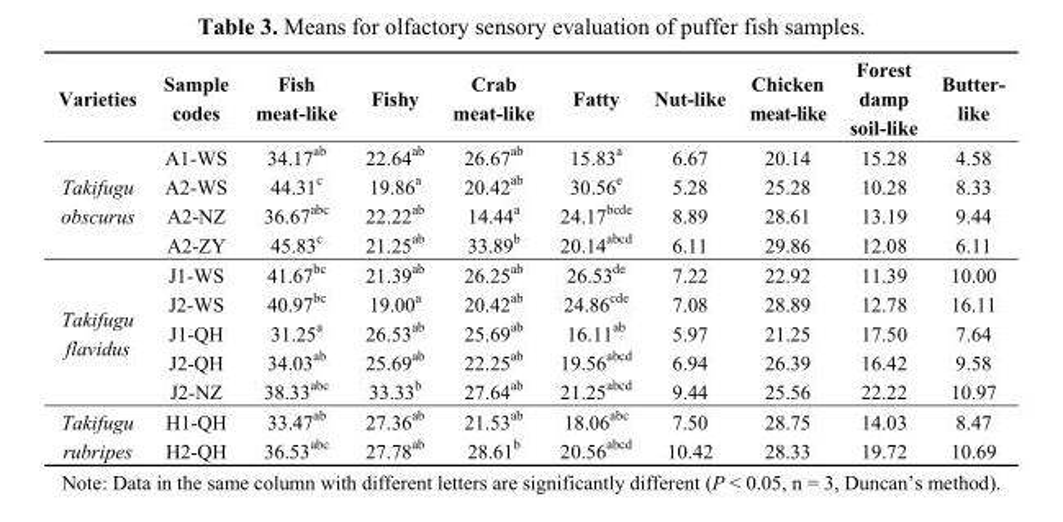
<table><thead><tr><td>Varieties</td><td>Sample codes</td><td>Fish meat-like</td><td>Fishy</td><td>Crab meat-like</td><td>Fatty</td><td>Nut-like</td><td>Chicken meat-like</td><td>Forest damp soil-like</td><td>Butter- like</td></tr></thead><tbody><tr><td rowspan="4">Takifugu obscurus</td><td>A1-WS</td><td>34.17<sup>ab</sup></td><td>22.64<sup>ab</sup></td><td>26.67<sup>ab</sup></td><td>15.83<sup>a</sup></td><td>6.67</td><td>20.14</td><td>15.28</td><td>4.58</td></tr><tr><td>A2-WS</td><td>44.31<sup>c</sup></td><td>19.86<sup>a</sup></td><td>20.42<sup>ab</sup></td><td>30.56<sup>e</sup></td><td>5.28</td><td>25.28</td><td>10.28</td><td>8.33</td></tr><tr><td>A2-NZ</td><td>36.67<sup>abc</sup></td><td>22.22<sup>ab</sup></td><td>14.44<sup>a</sup></td><td>24.17<sup>bcde</sup></td><td>8.89</td><td>28.61</td><td>13.19</td><td>9.44</td></tr><tr><td>A2-ZY</td><td>45.83<sup>c</sup></td><td>21.25<sup>ab</sup></td><td>33.89<sup>b</sup></td><td>20.14<sup>abcd</sup></td><td>6.11</td><td>29.86</td><td>12.08</td><td>6.11</td></tr><tr><td rowspan="5">Takifugu flavidus</td><td>J1-WS</td><td>41.67<sup>bc</sup></td><td>21.39<sup>ab</sup></td><td>26.25<sup>ab</sup></td><td>26.53<sup>de</sup></td><td>7.22</td><td>22.92</td><td>11.39</td><td>10.00</td></tr><tr><td>J2-WS</td><td>40.97<sup>bc</sup></td><td>19.00<sup>a</sup></td><td>20.42<sup>ab</sup></td><td>24.86<sup>cde</sup></td><td>7.08</td><td>28.89</td><td>12.78</td><td>16.11</td></tr><tr><td>J1-QH</td><td>31.25<sup>a</sup></td><td>26.53<sup>ab</sup></td><td>25.69<sup>ab</sup></td><td>16.11<sup>ab</sup></td><td>5.97</td><td>21.25</td><td>17.50</td><td>7.64</td></tr><tr><td>J2-QH</td><td>34.03<sup>ab</sup></td><td>25.69<sup>ab</sup></td><td>22.25<sup>ab</sup></td><td>19.56<sup>abcd</sup></td><td>6.94</td><td>26.39</td><td>16.42</td><td>9.58</td></tr><tr><td>J2-NZ</td><td>38.33<sup>abc</sup></td><td>33.33<sup>b</sup></td><td>27.64<sup>ab</sup></td><td>21.25<sup>abcd</sup></td><td>9.44</td><td>25.56</td><td>22.22</td><td>10.97</td></tr><tr><td rowspan="2">Takifugu rubripes</td><td>H1-QH</td><td>33.47<sup>ab</sup></td><td>27.36<sup>ab</sup></td><td>21.53<sup>ab</sup></td><td>18.06<sup>abc</sup></td><td>7.50</td><td>28.75</td><td>14.03</td><td>8.47</td></tr><tr><td>H2-QH</td><td>36.53<sup>abc</sup></td><td>27.78<sup>ab</sup></td><td>28.61<sup>b</sup></td><td>20.56<sup>abcd</sup></td><td>10.42</td><td>28.33</td><td>19.72</td><td>10.69</td></tr></tbody></table>